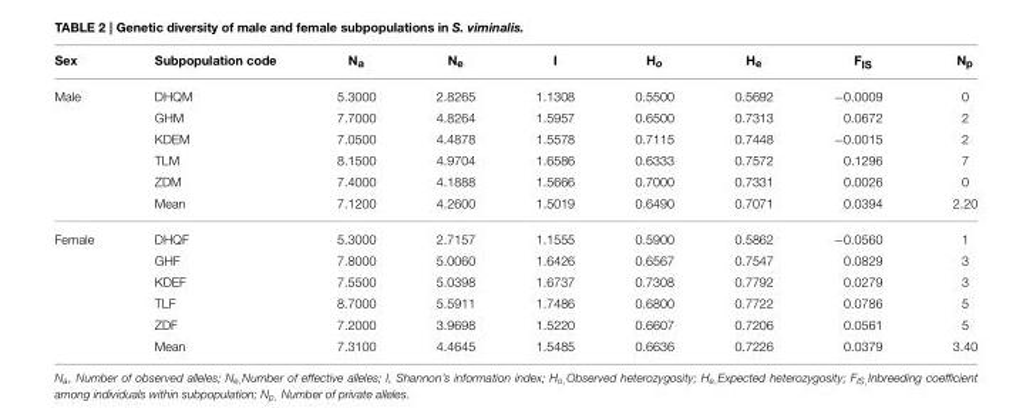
<table><thead><tr><td>Sex</td><td>Subpopulation code</td><td>N<sub>a</sub></td><td>N<sub>e</sub></td><td>I</td><td>H<sub>o</sub></td><td>H<sub>e</sub></td><td>F<sub>IS</sub></td><td>N<sub>p</sub></td></tr></thead><tbody><tr><td rowspan="6">Male</td><td>DHQM</td><td>5.3000</td><td>2.8265</td><td>1.1308</td><td>0.5500</td><td>0.5692</td><td>−0.0009</td><td>0</td></tr><tr><td>GHM</td><td>7.7000</td><td>4.8264</td><td>1.5957</td><td>0.6500</td><td>0.7313</td><td>0.0672</td><td>2</td></tr><tr><td>KDEM</td><td>7.0500</td><td>4.4878</td><td>1.5578</td><td>0.7115</td><td>0.7448</td><td>−0.0015</td><td>2</td></tr><tr><td>TLM</td><td>8.1500</td><td>4.9704</td><td>1.6586</td><td>0.6333</td><td>0.7572</td><td>0.1296</td><td>7</td></tr><tr><td>ZDM</td><td>7.4000</td><td>4.1888</td><td>1.5666</td><td>0.7000</td><td>0.7331</td><td>0.0026</td><td>0</td></tr><tr><td>Mean</td><td>7.1200</td><td>4.2600</td><td>1.5019</td><td>0.6490</td><td>0.7071</td><td>0.0394</td><td>2.20</td></tr><tr><td rowspan="6">Female</td><td>DHQF</td><td>5.3000</td><td>2.7157</td><td>1.1555</td><td>0.5900</td><td>0.5862</td><td>−0.0560</td><td>1</td></tr><tr><td>GHF</td><td>7.8000</td><td>5.0060</td><td>1.6426</td><td>0.6567</td><td>0.7547</td><td>0.0829</td><td>3</td></tr><tr><td>KDEF</td><td>7.5500</td><td>5.0398</td><td>1.6737</td><td>0.7308</td><td>0.7792</td><td>0.0279</td><td>3</td></tr><tr><td>TLF</td><td>8.7000</td><td>5.5911</td><td>1.7486</td><td>0.6800</td><td>0.7722</td><td>0.0786</td><td>5</td></tr><tr><td>ZDF</td><td>7.2000</td><td>3.9698</td><td>1.5220</td><td>0.6607</td><td>0.7206</td><td>0.0561</td><td>5</td></tr><tr><td>Mean</td><td>7.3100</td><td>4.4645</td><td>1.5485</td><td>0.6636</td><td>0.7226</td><td>0.0379</td><td>3.40</td></tr></tbody></table>